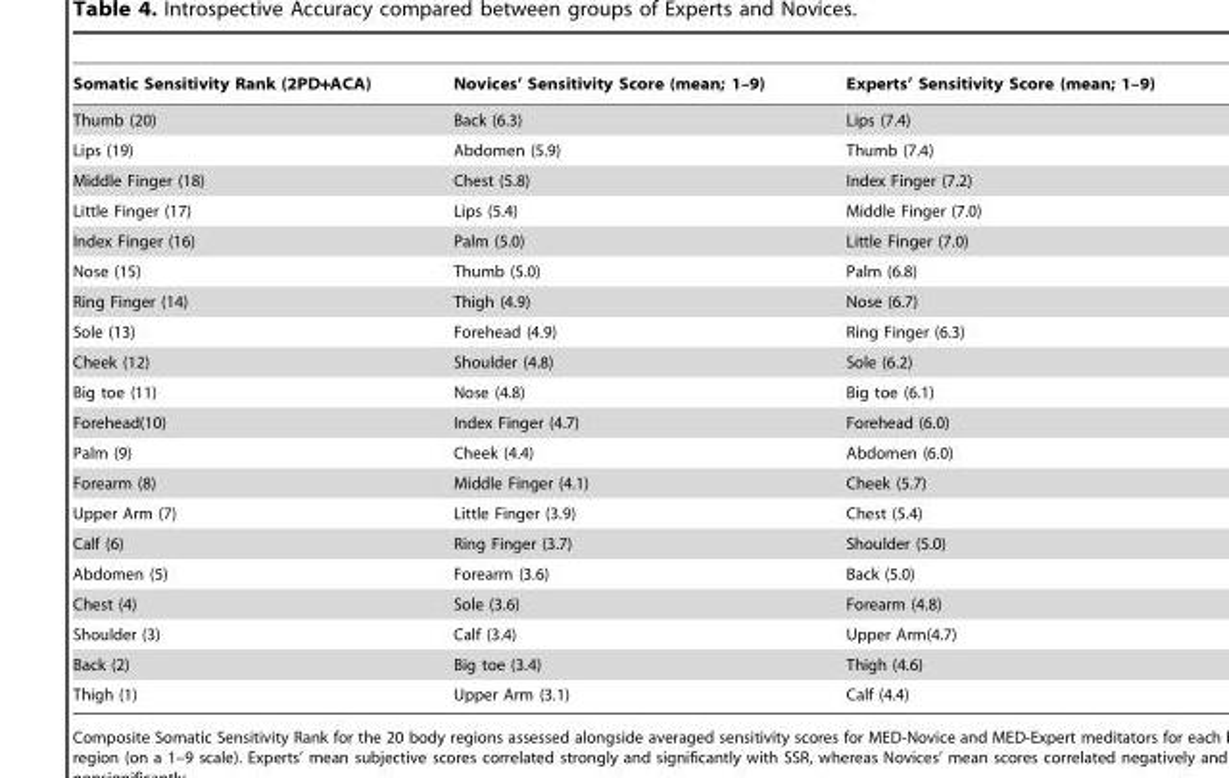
<table><thead><tr><td>Somatic Sensitivity Rank (2PD+ACA)</td><td>Novices’ Sensitivity Score (mean; 1–9)</td><td>Experts’ Sensitivity Score (mean; 1–9)</td></tr></thead><tbody><tr><td>Thumb (20)</td><td>Back (6.3)</td><td>Lips (7.4)</td></tr><tr><td>Lips (19)</td><td>Abdomen (5.9)</td><td>Thumb (7.4)</td></tr><tr><td>Middle Finger (18)</td><td>Chest (5.8)</td><td>Index Finger (7.2)</td></tr><tr><td>Little Finger (17)</td><td>Lips (5.4)</td><td>Middle Finger (7.0)</td></tr><tr><td>Index Finger (16)</td><td>Palm (5.0)</td><td>Little Finger (7.0)</td></tr><tr><td>Nose (15)</td><td>Thumb (5.0)</td><td>Palm (6.8)</td></tr><tr><td>Ring Finger (14)</td><td>Thigh (4.9)</td><td>Nose (6.7)</td></tr><tr><td>Sole (13)</td><td>Forehead (4.9)</td><td>Ring Finger (6.3)</td></tr><tr><td>Cheek (12)</td><td>Shoulder (4.8)</td><td>Sole (6.2)</td></tr><tr><td>Big toe (11)</td><td>Nose (4.8)</td><td>Big toe (6.1)</td></tr><tr><td>Forehead(10)</td><td>Index Finger (4.7)</td><td>Forehead (6.0)</td></tr><tr><td>Palm (9)</td><td>Cheek (4.4)</td><td>Abdomen (6.0)</td></tr><tr><td>Forearm (8)</td><td>Middle Finger (4.1)</td><td>Cheek (5.7)</td></tr><tr><td>Upper Arm (7)</td><td>Little Finger (3.9)</td><td>Chest (5.4)</td></tr><tr><td>Calf (6)</td><td>Ring Finger (3.7)</td><td>Shoulder (5.0)</td></tr><tr><td>Abdomen (5)</td><td>Forearm (3.6)</td><td>Back (5.0)</td></tr><tr><td>Chest (4)</td><td>Sole (3.6)</td><td>Forearm (4.8)</td></tr><tr><td>Shoulder (3)</td><td>Calf (3.4)</td><td>Upper Arm(4.7)</td></tr><tr><td>Back (2)</td><td>Big toe (3.4)</td><td>Thigh (4.6)</td></tr><tr><td>Thigh (1)</td><td>Upper Arm (3.1)</td><td>Calf (4.4)</td></tr></tbody></table>